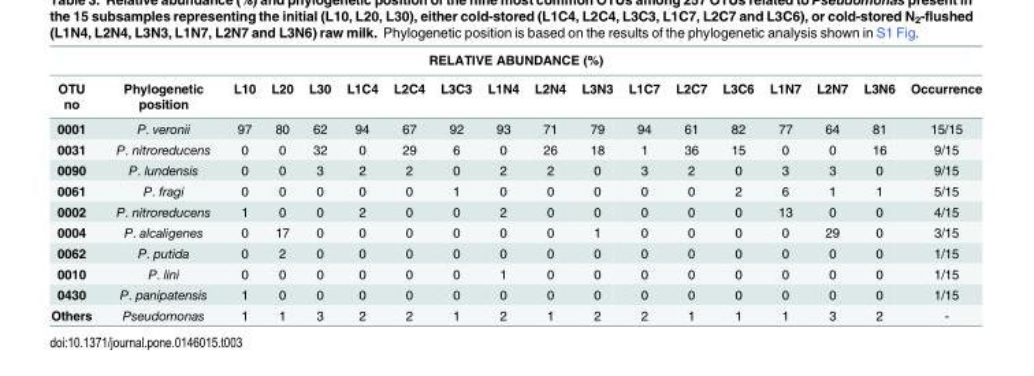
<table><thead><tr><td colspan="18">RELATIVE ABUNDANCE (%)</td></tr><tr><td>OTU no</td><td>Phylogenetic position</td><td>L10</td><td>L20</td><td>L30</td><td>L1C4</td><td>L2C4</td><td>L3C3</td><td>L1N4</td><td>L2N4</td><td>L3N3</td><td>L1C7</td><td>L2C7</td><td>L3C6</td><td>L1N7</td><td>L2N7</td><td>L3N6</td><td>Occurrence</td></tr></thead><tbody><tr><td>0001</td><td>P. veronii</td><td>97</td><td>80</td><td>62</td><td>94</td><td>67</td><td>92</td><td>93</td><td>71</td><td>79</td><td>94</td><td>61</td><td>82</td><td>77</td><td>64</td><td>81</td><td>15/15</td></tr><tr><td>0031</td><td>P. nitroreducens</td><td>0</td><td>0</td><td>32</td><td>0</td><td>29</td><td>6</td><td>0</td><td>26</td><td>18</td><td>1</td><td>36</td><td>15</td><td>0</td><td>0</td><td>16</td><td>9/15</td></tr><tr><td>0090</td><td>P. lundensis</td><td>0</td><td>0</td><td>3</td><td>2</td><td>2</td><td>0</td><td>2</td><td>2</td><td>0</td><td>3</td><td>2</td><td>0</td><td>3</td><td>3</td><td>0</td><td>9/15</td></tr><tr><td>0061</td><td>P. fragi</td><td>0</td><td>0</td><td>0</td><td>0</td><td>0</td><td>1</td><td>0</td><td>0</td><td>0</td><td>0</td><td>0</td><td>2</td><td>6</td><td>1</td><td>1</td><td>5/15</td></tr><tr><td>0002</td><td>P. nitroreducens</td><td>1</td><td>0</td><td>0</td><td>2</td><td>0</td><td>0</td><td>2</td><td>0</td><td>0</td><td>0</td><td>0</td><td>0</td><td>13</td><td>0</td><td>0</td><td>4/15</td></tr><tr><td>0004</td><td>P. alcaligenes</td><td>0</td><td>17</td><td>0</td><td>0</td><td>0</td><td>0</td><td>0</td><td>0</td><td>1</td><td>0</td><td>0</td><td>0</td><td>0</td><td>29</td><td>0</td><td>3/15</td></tr><tr><td>0062</td><td>P. putida</td><td>0</td><td>2</td><td>0</td><td>0</td><td>0</td><td>0</td><td>0</td><td>0</td><td>0</td><td>0</td><td>0</td><td>0</td><td>0</td><td>0</td><td>0</td><td>1/15</td></tr><tr><td>0010</td><td>P. lini</td><td>0</td><td>0</td><td>0</td><td>0</td><td>0</td><td>0</td><td>1</td><td>0</td><td>0</td><td>0</td><td>0</td><td>0</td><td>0</td><td>0</td><td>0</td><td>1/15</td></tr><tr><td>0430</td><td>P. panipatensis</td><td>1</td><td>0</td><td>0</td><td>0</td><td>0</td><td>0</td><td>0</td><td>0</td><td>0</td><td>0</td><td>0</td><td>0</td><td>0</td><td>0</td><td>0</td><td>1/15</td></tr><tr><td>Others</td><td>Pseudomonas</td><td>1</td><td>1</td><td>3</td><td>2</td><td>2</td><td>1</td><td>2</td><td>1</td><td>2</td><td>2</td><td>1</td><td>1</td><td>1</td><td>3</td><td>2</td><td>-</td></tr></tbody></table>